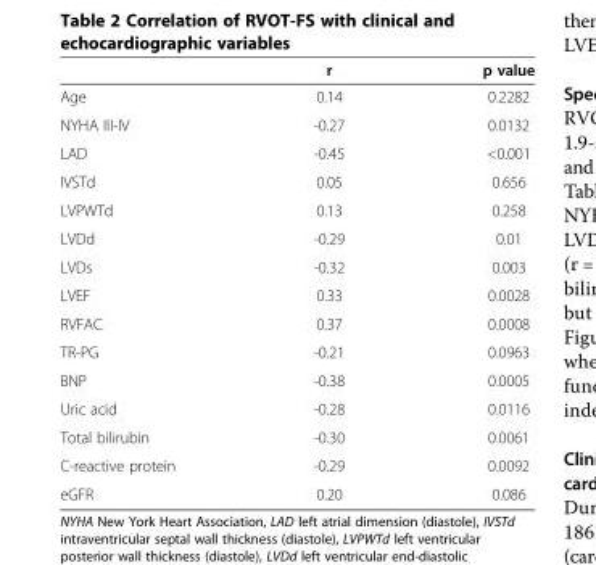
<table><thead><tr><td></td><td>r</td><td>p value</td></tr></thead><tbody><tr><td>Age</td><td>0.14</td><td>0.2282</td></tr><tr><td>NYHA III-IV</td><td>-0.27</td><td>0.0132</td></tr><tr><td>LAD</td><td>-0.45</td><td>&lt;0.001</td></tr><tr><td>IVSTd</td><td>0.05</td><td>0.656</td></tr><tr><td>LVPWTd</td><td>0.13</td><td>0.258</td></tr><tr><td>LVDd</td><td>-0.29</td><td>0.01</td></tr><tr><td>LVDs</td><td>-0.32</td><td>0.003</td></tr><tr><td>LVEF</td><td>0.33</td><td>0.0028</td></tr><tr><td>RVFAC</td><td>0.37</td><td>0.0008</td></tr><tr><td>TR-PG</td><td>-0.21</td><td>0.0963</td></tr><tr><td>BNP</td><td>-0.38</td><td>0.0005</td></tr><tr><td>Uric acid</td><td>-0.28</td><td>0.0116</td></tr><tr><td>Total bilirubin</td><td>-0.30</td><td>0.0061</td></tr><tr><td>C-reactive protein</td><td>-0.29</td><td>0.0092</td></tr><tr><td>eGFR</td><td>0.20</td><td>0.086</td></tr></tbody></table>